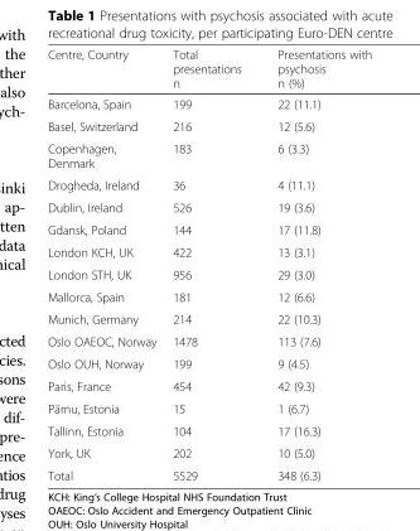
<table><thead><tr><td>Centre, Country</td><td>Total presentations n</td><td>Presentations with psychosis n (%)</td></tr></thead><tbody><tr><td>Barcelona, Spain</td><td>199</td><td>22 (11.1)</td></tr><tr><td>Basel, Switzerland</td><td>216</td><td>12 (5.6)</td></tr><tr><td>Copenhagen, Denmark</td><td>183</td><td>6 (3.3)</td></tr><tr><td>Drogheda, Ireland</td><td>36</td><td>4 (11.1)</td></tr><tr><td>Dublin, Ireland</td><td>526</td><td>19 (3.6)</td></tr><tr><td>Gdansk, Poland</td><td>144</td><td>17 (11.8)</td></tr><tr><td>London KCH, UK</td><td>422</td><td>13 (3.1)</td></tr><tr><td>London STH, UK</td><td>956</td><td>29 (3.0)</td></tr><tr><td>Mallorca, Spain</td><td>181</td><td>12 (6.6)</td></tr><tr><td>Munich, Germany</td><td>214</td><td>22 (10.3)</td></tr><tr><td>Oslo OAEOC, Norway</td><td>1478</td><td>113 (7.6)</td></tr><tr><td>Oslo OUH, Norway</td><td>199</td><td>9 (4.5)</td></tr><tr><td>Paris, France</td><td>454</td><td>42 (9.3)</td></tr><tr><td>Pärnu, Estonia</td><td>15</td><td>1 (6.7)</td></tr><tr><td>Tallinn, Estonia</td><td>104</td><td>17 (16.3)</td></tr><tr><td>York, UK</td><td>202</td><td>10 (5.0)</td></tr><tr><td>Total</td><td>5529</td><td>348 (6.3)</td></tr></tbody></table>